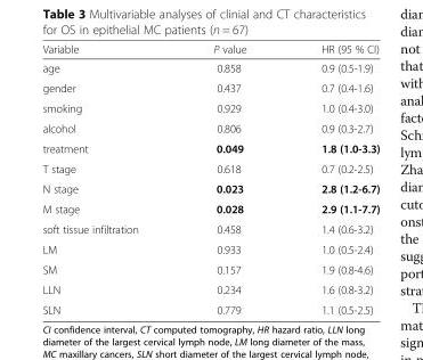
<table><thead><tr><td>Variable</td><td>P value</td><td>HR (95 % CI)</td></tr></thead><tbody><tr><td>age</td><td>0.858</td><td>0.9 (0.5-1.9)</td></tr><tr><td>gender</td><td>0.437</td><td>0.7 (0.4-1.6)</td></tr><tr><td>smoking</td><td>0.929</td><td>1.0 (0.4-3.0)</td></tr><tr><td>alcohol</td><td>0.806</td><td>0.9 (0.3-2.7)</td></tr><tr><td>treatment</td><td>0.049</td><td>1.8 (1.0-3.3)</td></tr><tr><td>T stage</td><td>0.618</td><td>0.7 (0.2-2.5)</td></tr><tr><td>N stage</td><td>0.023</td><td>2.8 (1.2-6.7)</td></tr><tr><td>M stage</td><td>0.028</td><td>2.9 (1.1-7.7)</td></tr><tr><td>soft tissue infiltration</td><td>0.458</td><td>1.4 (0.6-3.2)</td></tr><tr><td>LM</td><td>0.933</td><td>1.0 (0.5-2.4)</td></tr><tr><td>SM</td><td>0.157</td><td>1.9 (0.8-4.6)</td></tr><tr><td>LLN</td><td>0.234</td><td>1.6 (0.8-3.2)</td></tr><tr><td>SLN</td><td>0.779</td><td>1.1 (0.5-2.5)</td></tr></tbody></table>